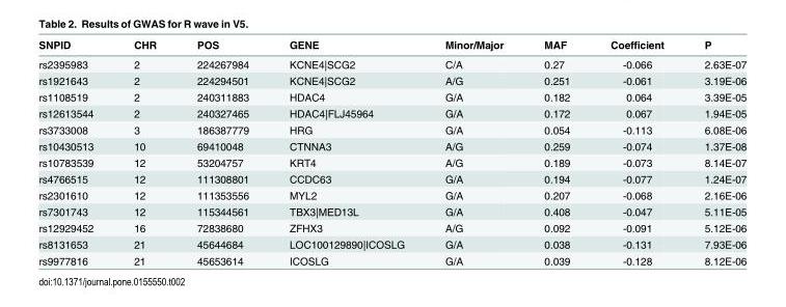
<table><thead><tr><td>SNPID</td><td>CHR</td><td>POS</td><td>GENE</td><td>Minor/Major</td><td>MAF</td><td>Coefficient</td><td>P</td></tr></thead><tbody><tr><td>rs2395983</td><td>2</td><td>224267984</td><td>KCNE4|SCG2</td><td>C/A</td><td>0.27</td><td>-0.066</td><td>2.63E-07</td></tr><tr><td>rs1921643</td><td>2</td><td>224294501</td><td>KCNE4|SCG2</td><td>A/G</td><td>0.251</td><td>-0.061</td><td>3.19E-06</td></tr><tr><td>rs1108519</td><td>2</td><td>240311883</td><td>HDAC4</td><td>G/A</td><td>0.182</td><td>0.064</td><td>3.39E-05</td></tr><tr><td>rs12613544</td><td>2</td><td>240327465</td><td>HDAC4|FLJ45964</td><td>G/A</td><td>0.172</td><td>0.067</td><td>1.94E-05</td></tr><tr><td>rs3733008</td><td>3</td><td>186387779</td><td>HRG</td><td>G/A</td><td>0.054</td><td>-0.113</td><td>6.08E-06</td></tr><tr><td>rs10430513</td><td>10</td><td>69410048</td><td>CTNNA3</td><td>A/G</td><td>0.259</td><td>-0.074</td><td>1.37E-08</td></tr><tr><td>rs10783539</td><td>12</td><td>53204757</td><td>KRT4</td><td>A/G</td><td>0.189</td><td>-0.073</td><td>8.14E-07</td></tr><tr><td>rs4766515</td><td>12</td><td>111308801</td><td>CCDC63</td><td>G/A</td><td>0.194</td><td>-0.077</td><td>1.24E-07</td></tr><tr><td>rs2301610</td><td>12</td><td>111353556</td><td>MYL2</td><td>G/A</td><td>0.207</td><td>-0.068</td><td>2.16E-06</td></tr><tr><td>rs7301743</td><td>12</td><td>115344561</td><td>TBX3|MED13L</td><td>G/A</td><td>0.408</td><td>-0.047</td><td>5.11E-05</td></tr><tr><td>rs12929452</td><td>16</td><td>72838680</td><td>ZFHX3</td><td>A/G</td><td>0.092</td><td>-0.091</td><td>5.12E-06</td></tr><tr><td>rs8131653</td><td>21</td><td>45644684</td><td>LOC100129890|ICOSLG</td><td>G/A</td><td>0.038</td><td>-0.131</td><td>7.93E-06</td></tr><tr><td>rs9977816</td><td>21</td><td>45653614</td><td>ICOSLG</td><td>G/A</td><td>0.039</td><td>-0.128</td><td>8.12E-06</td></tr></tbody></table>